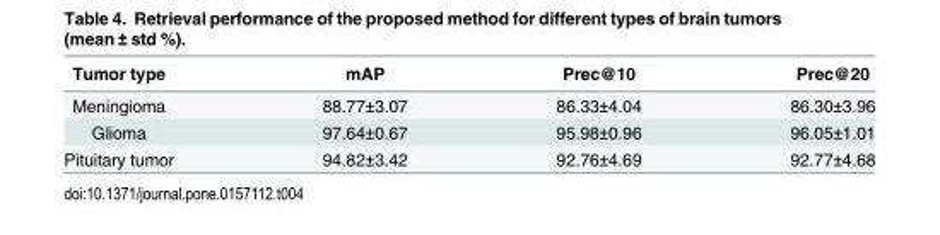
<table><thead><tr><td>Tumor type</td><td>mAP</td><td>Prec@10</td><td>Prec@20</td></tr></thead><tbody><tr><td>Meningioma</td><td>88.77±3.07</td><td>86.33±4.04</td><td>86.30±3.96</td></tr><tr><td>Glioma</td><td>97.64±0.67</td><td>95.98±0.96</td><td>96.05±1.01</td></tr><tr><td>Pituitary tumor</td><td>94.82±3.42</td><td>92.76±4.69</td><td>92.77±4.68</td></tr></tbody></table>